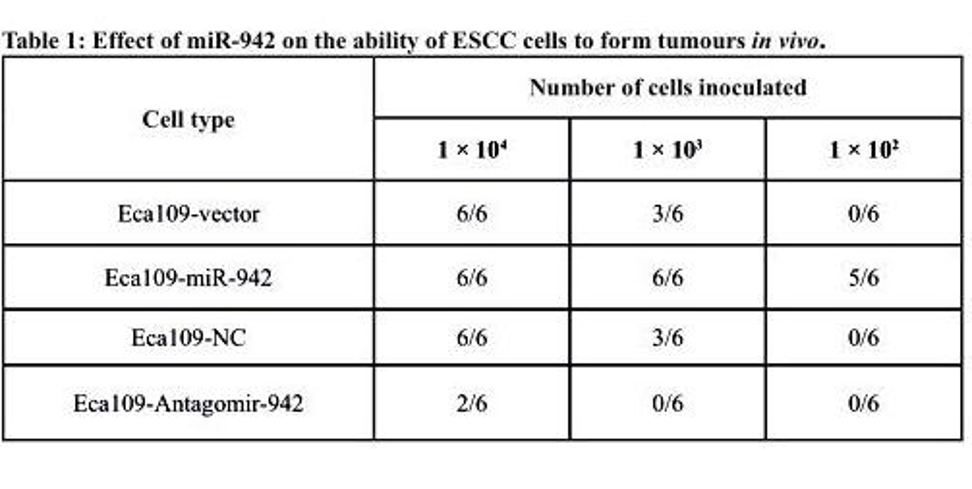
<table><thead><tr><td rowspan="2">cell type</td><td colspan="3">Number of cells inoculated</td></tr><tr><td>1 × 10<sup>4</sup></td><td>1 × 10<sup>3</sup></td><td>1 × 10<sup>2</sup></td></tr></thead><tbody><tr><td>Eca109-vector</td><td>6/6</td><td>3/6</td><td>0/6</td></tr><tr><td>Eca109-miR-942</td><td>6/6</td><td>6/6</td><td>5/6</td></tr><tr><td>Eca109-NC</td><td>6/6</td><td>3/6</td><td>0/6</td></tr><tr><td>Eca109-Antagomir-942</td><td>2/6</td><td>0/6</td><td>0/6</td></tr></tbody></table>